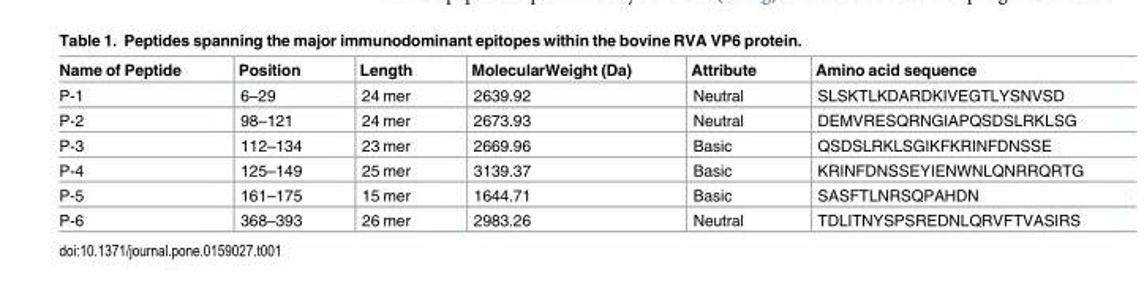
<table><thead><tr><td>Name of Peptide</td><td>Position</td><td>Length</td><td>MolecularWeight (Da)</td><td>Attribute</td><td>Amino acid sequence</td></tr></thead><tbody><tr><td>P-1</td><td>6–29</td><td>24 mer</td><td>2639.92</td><td>Neutral</td><td>SLSKTLKDARDKIVEGTLYSNVSD</td></tr><tr><td>P-2</td><td>98–121</td><td>24 mer</td><td>2673.93</td><td>Neutral</td><td>DEMVRESQRNGIAPQSDSLRKLSG</td></tr><tr><td>P-3</td><td>112–134</td><td>23 mer</td><td>2669.96</td><td>Basic</td><td>QSDSLRKLSGIKFKRINFDNSSE</td></tr><tr><td>P-4</td><td>125–149</td><td>25 mer</td><td>3139.37</td><td>Basic</td><td>KRINFDNSSEYIENWNLQNRRQRTG</td></tr><tr><td>P-5</td><td>161–175</td><td>15 mer</td><td>1644.71</td><td>Basic</td><td>SASFTLNRSQPAHDN</td></tr><tr><td>P-6</td><td>368–393</td><td>26 mer</td><td>2983.26</td><td>Neutral</td><td>TDLITNYSPSREDNLQRVFTVASIRS</td></tr></tbody></table>